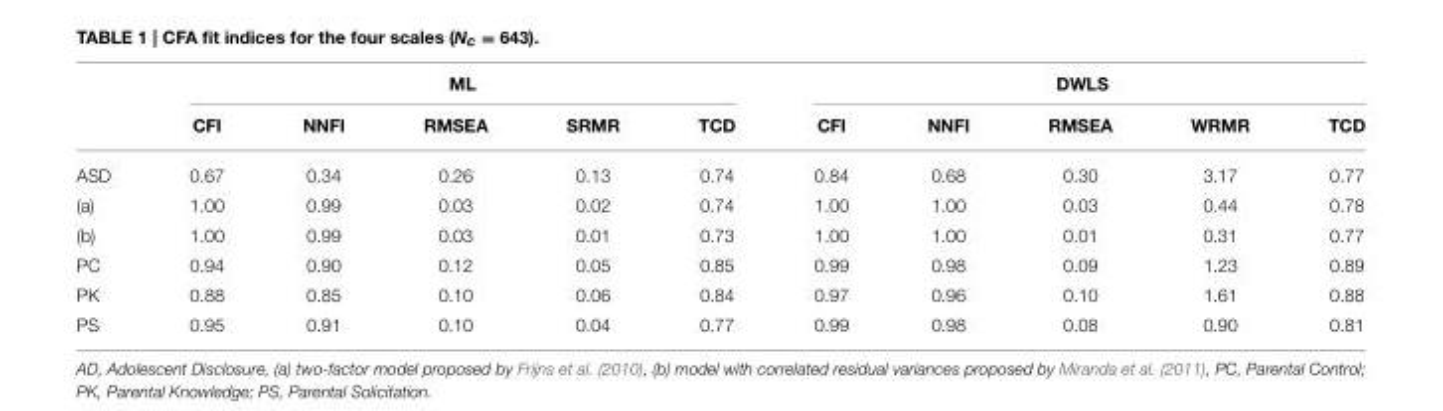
<table><thead><tr><td rowspan="2"></td><td colspan="5">ML</td><td colspan="5">DWLS</td></tr><tr><td>CFI</td><td>NNFI</td><td>RMSEA</td><td>SRMR</td><td>TCD</td><td>CFI</td><td>NNFI</td><td>RMSEA</td><td>WRMR</td><td>TCD</td></tr></thead><tbody><tr><td>ASD</td><td>0.67</td><td>0.34</td><td>0.26</td><td>0.13</td><td>0.74</td><td>0.84</td><td>0.68</td><td>0.30</td><td>3.17</td><td>0.77</td></tr><tr><td>(a)</td><td>1.00</td><td>0.99</td><td>0.03</td><td>0.02</td><td>0.74</td><td>1.00</td><td>1.00</td><td>0.03</td><td>0.44</td><td>0.78</td></tr><tr><td>(b)</td><td>1.00</td><td>0.99</td><td>0.03</td><td>0.01</td><td>0.73</td><td>1.00</td><td>1.00</td><td>0.01</td><td>0.31</td><td>0.77</td></tr><tr><td>PC</td><td>0.94</td><td>0.90</td><td>0.12</td><td>0.05</td><td>0.85</td><td>0.99</td><td>0.98</td><td>0.09</td><td>1.23</td><td>0.89</td></tr><tr><td>PK</td><td>0.88</td><td>0.85</td><td>0.10</td><td>0.06</td><td>0.84</td><td>0.97</td><td>0.96</td><td>0.10</td><td>1.61</td><td>0.88</td></tr><tr><td>PS</td><td>0.95</td><td>0.91</td><td>0.10</td><td>0.04</td><td>0.77</td><td>0.99</td><td>0.98</td><td>0.08</td><td>0.90</td><td>0.81</td></tr></tbody></table>